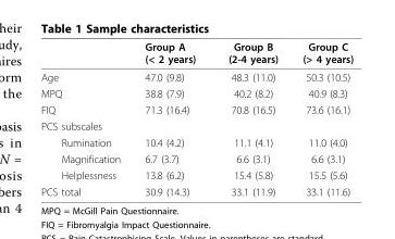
<table><thead><tr><td></td><td>Group A (&lt; 2 years)</td><td>Group B (2-4 years)</td><td>Group C (&gt; 4 years)</td></tr></thead><tbody><tr><td>Age</td><td>47.0 (9.8)</td><td>48.3 (11.0)</td><td>50.3 (10.5)</td></tr><tr><td>MPQ</td><td>38.8 (7.9)</td><td>40.2 (8.2)</td><td>40.9 (8.3)</td></tr><tr><td>FIQ</td><td>71.3 (16.4)</td><td>70.8 (16.5)</td><td>73.6 (16.1)</td></tr><tr><td colspan="4">PCS subscales</td></tr><tr><td>Rumination</td><td>10.4 (4.2)</td><td>11.1 (4.1)</td><td>11.0 (4.0)</td></tr><tr><td>Magnification</td><td>6.7 (3.7)</td><td>6.6 (3.1)</td><td>6.6 (3.1)</td></tr><tr><td>Helplessness</td><td>13.8 (6.2)</td><td>15.4 (5.8)</td><td>15.5 (5.6)</td></tr><tr><td>PCS total</td><td>30.9 (14.3)</td><td>33.1 (11.9)</td><td>33.1 (11.6)</td></tr></tbody></table>